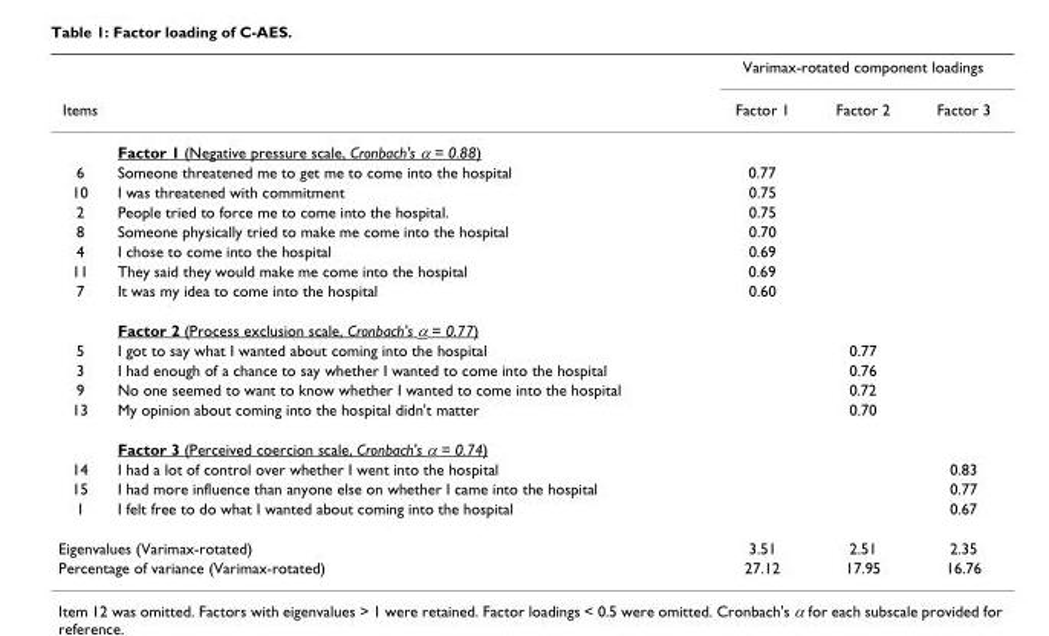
<table><thead><tr><td rowspan="2">Items</td><td rowspan="2"></td><td colspan="3">Varimax-rotated component loadings</td></tr><tr><td>Factor 1</td><td>Factor 2</td><td>Factor 3</td></tr></thead><tbody><tr><td></td><td>Factor 1 (Negative pressure scale, Cronbach&#x27;s α = 0.88)</td><td></td><td></td><td></td></tr><tr><td>6</td><td>Someone threatened me to get me to come into the hospital</td><td>0.77</td><td></td><td></td></tr><tr><td>10</td><td>I was threatened with commitment</td><td>0.75</td><td></td><td></td></tr><tr><td>2</td><td>People tried to force me to come into the hospital.</td><td>0.75</td><td></td><td></td></tr><tr><td>8</td><td>Someone physically tried to make me come into the hospital</td><td>0.70</td><td></td><td></td></tr><tr><td>4</td><td>I chose to come into the hospital</td><td>0.69</td><td></td><td></td></tr><tr><td>11</td><td>They said they would make me come into the hospital</td><td>0.69</td><td></td><td></td></tr><tr><td rowspan="2">7</td><td>It was my idea to come into the hospital</td><td>0.60</td><td></td><td></td></tr><tr><td>Factor 2 (Process exclusion scale, Cronbach&#x27;s α = 0.77)</td><td></td><td></td><td></td></tr><tr><td>5</td><td>I got to say what I wanted about coming into the hospital</td><td></td><td>0.77</td><td></td></tr><tr><td>3</td><td>I had enough of a chance to say whether I wanted to come into the hospital</td><td></td><td>0.76</td><td></td></tr><tr><td>9</td><td>No one seemed to want to know whether I wanted to come into the hospital</td><td></td><td>0.72</td><td></td></tr><tr><td rowspan="2">13</td><td>My opinion about coming into the hospital didn&#x27;t matter</td><td></td><td>0.70</td><td></td></tr><tr><td>Factor 3 (Perceived coercion scale, Cronbach&#x27;s α = 0.74)</td><td></td><td></td><td></td></tr><tr><td>14</td><td>I had a lot of control over whether I went into the hospital</td><td></td><td></td><td>0.83</td></tr><tr><td>15</td><td>I had more influence than anyone else on whether I came into the hospital</td><td></td><td></td><td>0.77</td></tr><tr><td>1</td><td>I felt free to do what I wanted about coming into the hospital</td><td></td><td></td><td>0.67</td></tr><tr><td colspan="2">Eigenvalues (Varimax-rotated)</td><td>3.51</td><td>2.51</td><td>2.35</td></tr><tr><td colspan="2">Percentage of variance (Varimax-rotated)</td><td>27.12</td><td>17.95</td><td>16.76</td></tr></tbody></table>